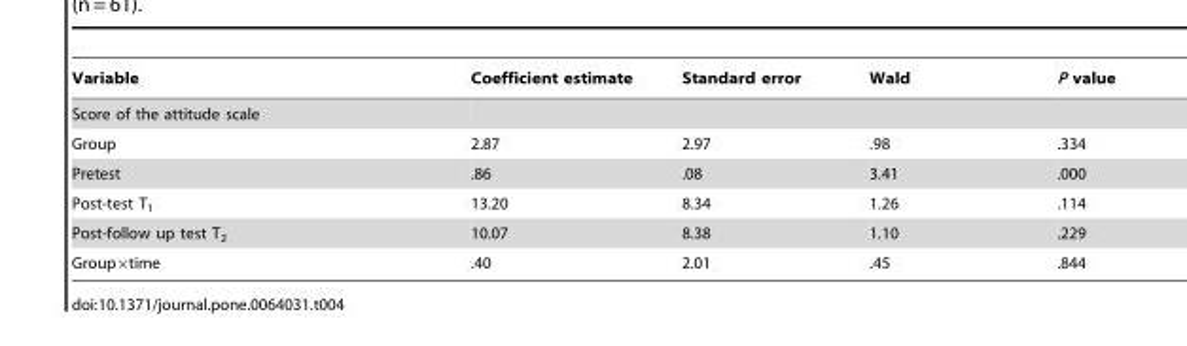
<table><thead><tr><td>Variable</td><td>Coefficient estimate</td><td>Standard error</td><td>Wald</td><td>P value</td></tr></thead><tbody><tr><td colspan="5">Score of the attitude scale</td></tr><tr><td>Group</td><td>2.87</td><td>2.97</td><td>.98</td><td>.334</td></tr><tr><td>Pretest</td><td>.86</td><td>.08</td><td>3.41</td><td>.000</td></tr><tr><td>Post-test T<sub>1</sub></td><td>13.20</td><td>8.34</td><td>1.26</td><td>.114</td></tr><tr><td>Post-follow up test T<sub>2</sub></td><td>10.07</td><td>8.38</td><td>1.10</td><td>.229</td></tr><tr><td>Group×time</td><td>.40</td><td>2.01</td><td>.45</td><td>.844</td></tr></tbody></table>